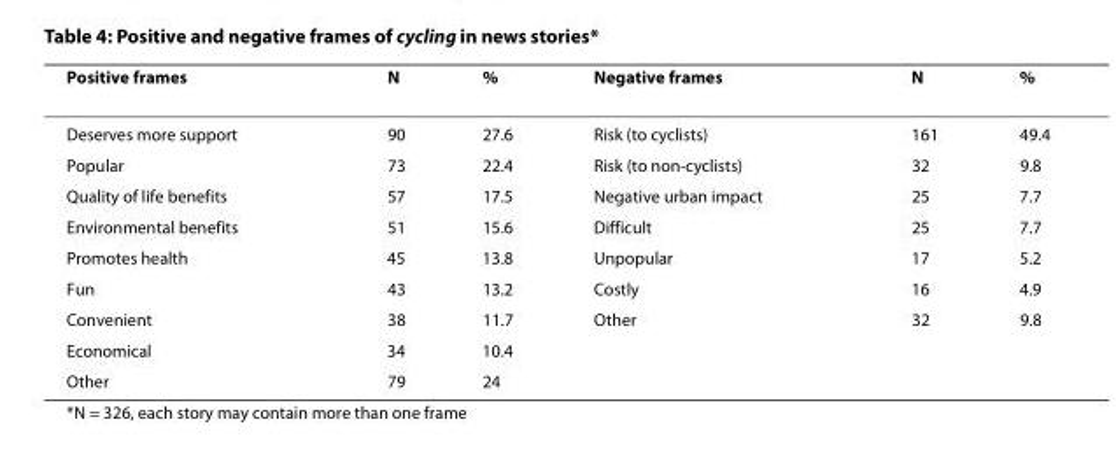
<table><thead><tr><td>Positive frames</td><td>N</td><td>%</td><td>Negative frames</td><td>N</td><td>%</td></tr></thead><tbody><tr><td>Deserves more support</td><td>90</td><td>27.6</td><td>Risk (to cyclists)</td><td>161</td><td>49.4</td></tr><tr><td>Popular</td><td>73</td><td>22.4</td><td>Risk (to non-cyclists)</td><td>32</td><td>9.8</td></tr><tr><td>Quality of life benefits</td><td>57</td><td>17.5</td><td>Negative urban impact</td><td>25</td><td>7.7</td></tr><tr><td>Environmental benefits</td><td>51</td><td>15.6</td><td>Difficult</td><td>25</td><td>7.7</td></tr><tr><td>Promotes health</td><td>45</td><td>13.8</td><td>Unpopular</td><td>17</td><td>5.2</td></tr><tr><td>Fun</td><td>43</td><td>13.2</td><td>Costly</td><td>16</td><td>4.9</td></tr><tr><td>Convenient</td><td>38</td><td>11.7</td><td>Other</td><td>32</td><td>9.8</td></tr><tr><td>Economical</td><td>34</td><td>10.4</td><td></td><td></td><td></td></tr><tr><td>Other</td><td>79</td><td>24</td><td></td><td></td><td></td></tr></tbody></table>